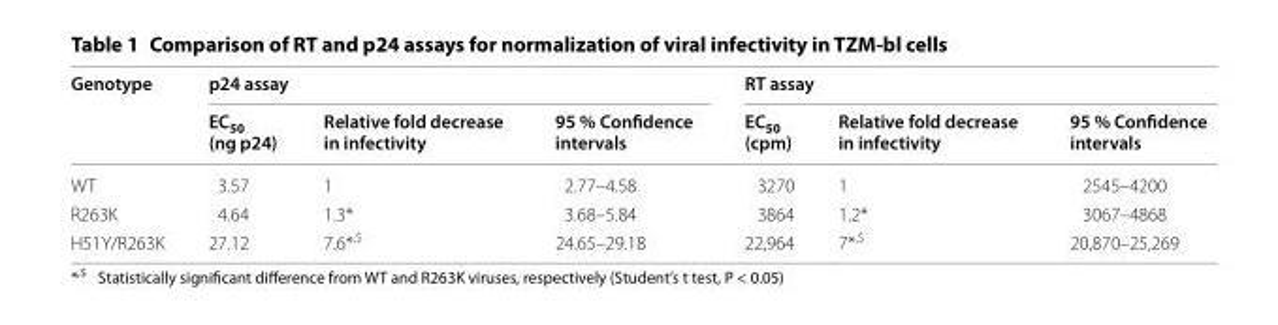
<table><thead><tr><td rowspan="2">Genotype</td><td colspan="3">p24 assay</td><td colspan="3">RT assay</td></tr><tr><td>EC<sub>50</sub> (ng p24)</td><td>Relative fold decrease in infectivity</td><td>95 % Confidence intervals</td><td>EC<sub>50</sub> (cpm)</td><td>Relative fold decrease in infectivity</td><td>95 % Confidence intervals</td></tr></thead><tbody><tr><td>WT</td><td>3.57</td><td>1</td><td>2.77–4.58</td><td>3270</td><td>1</td><td>2545–4200</td></tr><tr><td>R263K</td><td>4.64</td><td>1.3*</td><td>3.68–5.84</td><td>3864</td><td>1.2*</td><td>3067–4868</td></tr><tr><td>H51Y/R263K</td><td>27.12</td><td>7.6*<sup>,$</sup></td><td>24.65–29.18</td><td>22,964</td><td>7*<sup>,$</sup></td><td>20,870–25,269</td></tr></tbody></table>